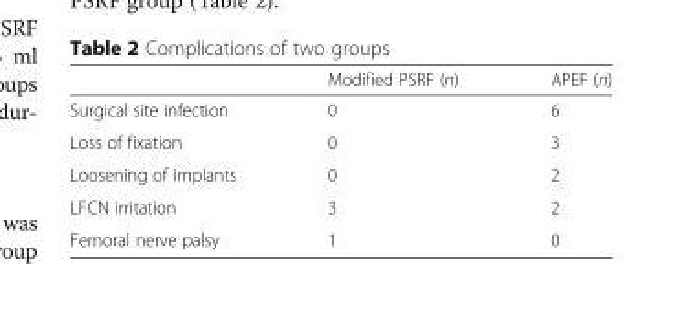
<table><thead><tr><td></td><td>Modified PSRF (n)</td><td>APEF (n)</td></tr></thead><tbody><tr><td>Surgical site infection</td><td>0</td><td>6</td></tr><tr><td>Loss of fixation</td><td>0</td><td>3</td></tr><tr><td>Loosening of implants</td><td>0</td><td>2</td></tr><tr><td>LFCN irritation</td><td>3</td><td>2</td></tr><tr><td>Femoral nerve palsy</td><td>1</td><td>0</td></tr></tbody></table>